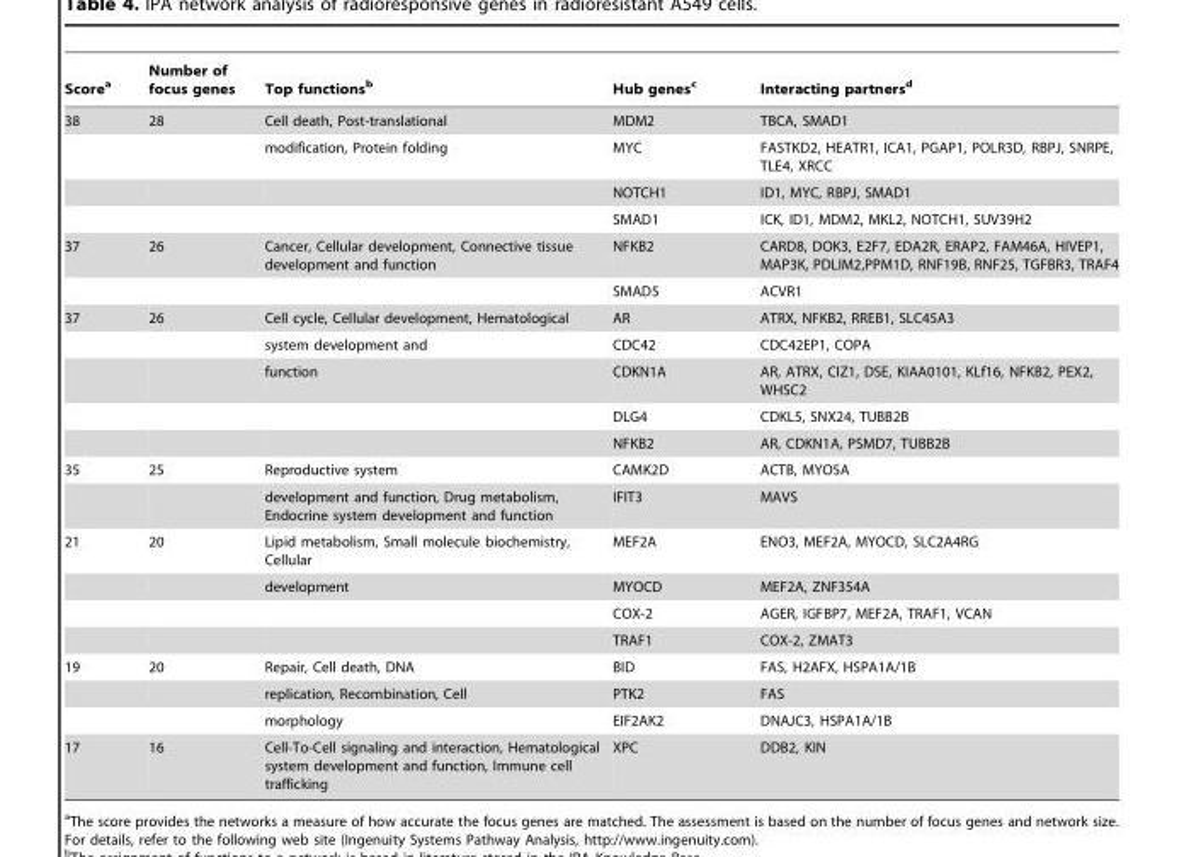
<table><thead><tr><td>Score<sup>a</sup></td><td>Number of focus genes</td><td>Top functions<sup>b</sup></td><td>Hub genes<sup>c</sup></td><td>Interacting partners<sup>d</sup></td></tr></thead><tbody><tr><td rowspan="4">38</td><td>28</td><td>Cell death, Post-translational</td><td>MDM2</td><td>TBCA, SMAD1</td></tr><tr><td></td><td>modification, Protein folding</td><td>MYC</td><td>FASTKD2, HEATR1, ICA1, PGAP1, POLR3D, RBPJ, SNRPE, TLE4, XRCC</td></tr><tr><td></td><td></td><td>NOTCH1</td><td>ID1, MYC, RBPJ, SMAD1</td></tr><tr><td></td><td></td><td>SMAD1</td><td>ICK, ID1, MDM2, MKL2, NOTCH1, SUV39H2</td></tr><tr><td rowspan="2">37</td><td>26</td><td>Cancer, Cellular development, Connective tissue development and function</td><td>NFKB2</td><td>CARD8, DOK3, E2F7, EDA2R, ERAP2, FAM46A, HIVEP1, MAP3K, PDLIM2,PPM1D, RNF19B, RNF25, TGFBR3, TRAF4</td></tr><tr><td></td><td></td><td>SMAD5</td><td>ACVR1</td></tr><tr><td rowspan="5">37</td><td>26</td><td>Cell cycle, Cellular development, Hematological</td><td>AR</td><td>ATRX, NFKB2, RREB1, SLC45A3</td></tr><tr><td></td><td>system development and</td><td>CDC42</td><td>CDC42EP1, COPA</td></tr><tr><td></td><td>function</td><td>CDKN1A</td><td>AR, ATRX, CIZ1, DSE, KIAA0101, KLf16, NFKB2, PEX2, WHSC2</td></tr><tr><td></td><td></td><td>DLG4</td><td>CDKL5, SNX24, TUBB2B</td></tr><tr><td></td><td></td><td>NFKB2</td><td>AR, CDKN1A, PSMD7, TUBB2B</td></tr><tr><td rowspan="2">35</td><td>25</td><td>Reproductive system</td><td>CAMK2D</td><td>ACTB, MYO5A</td></tr><tr><td></td><td>development and function, Drug metabolism, Endocrine system development and function</td><td>IFIT3</td><td>MAVS</td></tr><tr><td rowspan="4">21</td><td>20</td><td>Lipid metabolism, Small molecule biochemistry, Cellular</td><td>MEF2A</td><td>ENO3, MEF2A, MYOCD, SLC2A4RG</td></tr><tr><td></td><td>development</td><td>MYOCD</td><td>MEF2A, ZNF354A</td></tr><tr><td></td><td></td><td>COX-2</td><td>AGER, IGFBP7, MEF2A, TRAF1, VCAN</td></tr><tr><td></td><td></td><td>TRAF1</td><td>COX-2, ZMAT3</td></tr><tr><td rowspan="3">19</td><td>20</td><td>Repair, Cell death, DNA</td><td>BID</td><td>FAS, H2AFX, HSPA1A/1B</td></tr><tr><td></td><td>replication, Recombination, Cell</td><td>PTK2</td><td>FAS</td></tr><tr><td></td><td>morphology</td><td>EIF2AK2</td><td>DNAJC3, HSPA1A/1B</td></tr><tr><td>17</td><td>16</td><td>Cell-To-Cell signaling and interaction, Hematological system development and function, Immune cell trafficking</td><td>XPC</td><td>DDB2, KIN</td></tr></tbody></table>